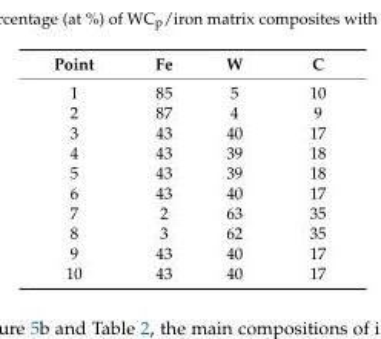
<table><thead><tr><td>Point</td><td>Fe</td><td>W</td><td>C</td></tr></thead><tbody><tr><td>1</td><td>85</td><td>5</td><td>10</td></tr><tr><td>2</td><td>87</td><td>4</td><td>9</td></tr><tr><td>3</td><td>43</td><td>40</td><td>17</td></tr><tr><td>4</td><td>43</td><td>39</td><td>18</td></tr><tr><td>5</td><td>43</td><td>39</td><td>18</td></tr><tr><td>6</td><td>43</td><td>40</td><td>17</td></tr><tr><td>7</td><td>2</td><td>63</td><td>35</td></tr><tr><td>8</td><td>3</td><td>62</td><td>35</td></tr><tr><td>9</td><td>43</td><td>40</td><td>17</td></tr><tr><td>10</td><td>43</td><td>40</td><td>17</td></tr></tbody></table>